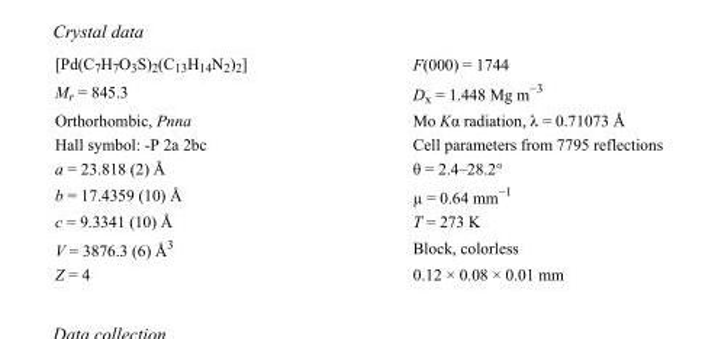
<table><tbody><tr><td>[Pd(C<sub>7</sub>H<sub>7</sub>O<sub>3</sub>S)<sub>2</sub>(C<sub>13</sub>H<sub>14</sub>N<sub>2</sub>)<sub>2</sub>]</td><td>F(000) = 1744</td></tr><tr><td>M<sub>r</sub> = 845.3</td><td>D<sub>x</sub> = 1.448 Mg m<sup>−3</sup></td></tr><tr><td>Orthorhombic, Pnna</td><td>Mo Kα radiation, λ = 0.71073 Å</td></tr><tr><td>Hall symbol: -P 2a 2bc</td><td>Cell parameters from 7795 reflections</td></tr><tr><td>a = 23.818 (2) Å</td><td>θ = 2.4–28.2°</td></tr><tr><td>b = 17.4359 (10) Å</td><td>µ = 0.64 mm<sup>−1</sup></td></tr><tr><td>c = 9.3341 (10) Å</td><td>T = 273 K</td></tr><tr><td>V = 3876.3 (6) Å<sup>3</sup></td><td>Block, colorless</td></tr><tr><td>Z = 4</td><td>0.12 × 0.08 × 0.01 mm</td></tr></tbody></table>